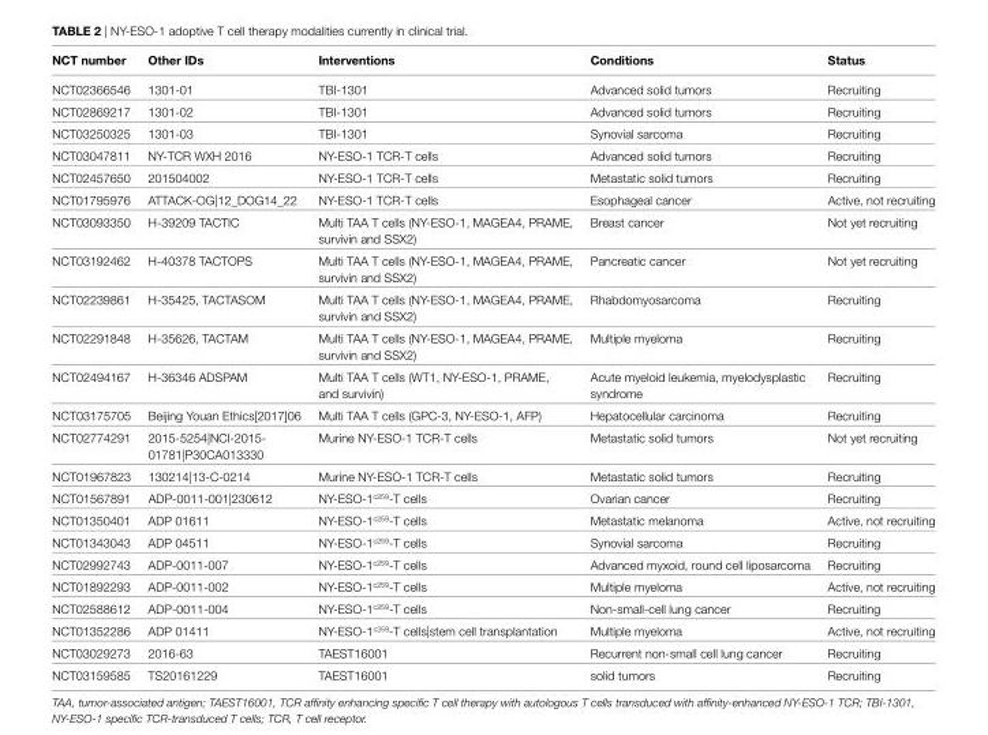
<table><thead><tr><td>NCT number</td><td>Other iDs</td><td>interventions</td><td>Conditions</td><td>Status</td></tr></thead><tbody><tr><td>NCT02366546</td><td>1301-01</td><td>TBI-1301</td><td>Advanced solid tumors</td><td>Recruiting</td></tr><tr><td>NCT02869217</td><td>1301-02</td><td>TBI-1301</td><td>Advanced solid tumors</td><td>Recruiting</td></tr><tr><td>NCT03250325</td><td>1301-03</td><td>TBI-1301</td><td>Synovial sarcoma</td><td>Recruiting</td></tr><tr><td>NCT03047811</td><td>NY-TCR WXH 2016</td><td>NY-ESO-1 TCR-T cells</td><td>Advanced solid tumors</td><td>Recruiting</td></tr><tr><td>NCT02457650</td><td>201504002</td><td>NY-ESO-1 TCR-T cells</td><td>Metastatic solid tumors</td><td>Recruiting</td></tr><tr><td>NCT01795976</td><td>ATTACK-OG|12_DOG14_22</td><td>NY-ESO-1 TCR-T cells</td><td>Esophageal cancer</td><td>Active, not recruiting</td></tr><tr><td>NCT03093350</td><td>H-39209 TACTIC</td><td>Multi TAA T cells (NY-ESO-1, MAGEA4, PRAME, survivin and SSX2)</td><td>Breast cancer</td><td>Not yet recruiting</td></tr><tr><td>NCT03192462</td><td>H-40378 TACTOPS</td><td>Multi TAA T cells (NY-ESO-1, MAGEA4, PRAME, survivin and SSX2)</td><td>Pancreatic cancer</td><td>Not yet recruiting</td></tr><tr><td>NCT02239861</td><td>H-35425, TACTASOM</td><td>Multi TAA T cells (NY-ESO-1, MAGEA4, PRAME, survivin and SSX2)</td><td>Rhabdomyosarcoma</td><td>Recruiting</td></tr><tr><td>NCT02291848</td><td>H-35626, TACTAM</td><td>Multi TAA T cells (NY-ESO-1, MAGEA4, PRAME, survivin and SSX2)</td><td>Multiple myeloma</td><td>Recruiting</td></tr><tr><td>NCT02494167</td><td>H-36346 ADSPAM</td><td>Multi TAA T cells (WT1, NY-ESO-1, PRAME, and survivin)</td><td>Acute myeloid leukemia, myelodysplastic syndrome</td><td>Recruiting</td></tr><tr><td>NCT03175705</td><td>Beijing Youan Ethics[2017]06</td><td>Multi TAA T cells (GPC-3, NY-ESO-1, AFP)</td><td>Hepatocellular carcinoma</td><td>Recruiting</td></tr><tr><td>NCT02774291</td><td>2015-5254|NCI-2015- 01781|P30CA013330</td><td>Murine NY-ESO-1 TCR-T cells</td><td>Metastatic solid tumors</td><td>Not yet recruiting</td></tr><tr><td>NCT01967823</td><td>130214|13-C-0214</td><td>Murine NY-ESO-1 TCR-T cells</td><td>Metastatic solid tumors</td><td>Recruiting</td></tr><tr><td>NCT01567891</td><td>ADP-0011-001|230612</td><td>NY-ESO-1<sup>c259</sup>-T cells</td><td>Ovarian cancer</td><td>Recruiting</td></tr><tr><td>NCT01350401</td><td>ADP 01611</td><td>NY-ESO-1<sup>c259</sup>-T cells</td><td>Metastatic melanoma</td><td>Active, not recruiting</td></tr><tr><td>NCT01343043</td><td>ADP 04511</td><td>NY-ESO-1<sup>c259</sup>-T cells</td><td>Synovial sarcoma</td><td>Recruiting</td></tr><tr><td>NCT02992743</td><td>ADP-0011-007</td><td>NY-ESO-1<sup>c259</sup>-T cells</td><td>Advanced myxoid, round cell liposarcoma</td><td>Recruiting</td></tr><tr><td>NCT01892293</td><td>ADP-0011-002</td><td>NY-ESO-1<sup>c259</sup>-T cells</td><td>Multiple myeloma</td><td>Active, not recruiting</td></tr><tr><td>NCT02588612</td><td>ADP-0011-004</td><td>NY-ESO-1<sup>c259</sup>-T cells</td><td>Non-small-cell lung cancer</td><td>Recruiting</td></tr><tr><td>NCT01352286</td><td>ADP 01411</td><td>NY-ESO-1<sup>c259</sup>-T cells|stem cell transplantation</td><td>Multiple myeloma</td><td>Active, not recruiting</td></tr><tr><td>NCT03029273</td><td>2016-63</td><td>TAEST16001</td><td>Recurrent non-small cell lung cancer</td><td>Recruiting</td></tr><tr><td>NCT03159585</td><td>TS20161229</td><td>TAEST16001</td><td>solid tumors</td><td>Recruiting</td></tr></tbody></table>